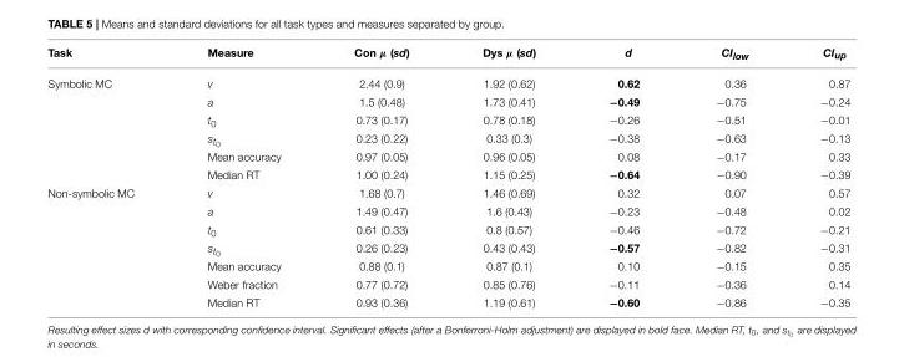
<table><thead><tr><td>Task</td><td>Measure</td><td>Con µ (sd)</td><td>Dys µ (sd)</td><td>d</td><td>CI<sub>low</sub></td><td>CI<sub>up</sub></td></tr></thead><tbody><tr><td rowspan="6">Symbolic MC</td><td>v</td><td>2.44 (0.9)</td><td>1.92 (0.62)</td><td>0.62</td><td>0.36</td><td>0.87</td></tr><tr><td>a</td><td>1.5 (0.48)</td><td>1.73 (0.41)</td><td>−0.49</td><td>−0.75</td><td>−0.24</td></tr><tr><td>t<sub>0</sub></td><td>0.73 (0.17)</td><td>0.78 (0.18)</td><td>−0.26</td><td>−0.51</td><td>−0.01</td></tr><tr><td>st0</td><td>0.23 (0.22)</td><td>0.33 (0.3)</td><td>−0.38</td><td>−0.63</td><td>−0.13</td></tr><tr><td>Mean accuracy</td><td>0.97 (0.05)</td><td>0.96 (0.05)</td><td>0.08</td><td>−0.17</td><td>0.33</td></tr><tr><td>Median RT</td><td>1.00 (0.24)</td><td>1.15 (0.25)</td><td>−0.64</td><td>−0.90</td><td>−0.39</td></tr><tr><td rowspan="7">Non-symbolic MC</td><td>v</td><td>1.68 (0.7)</td><td>1.46 (0.69)</td><td>0.32</td><td>0.07</td><td>0.57</td></tr><tr><td>a</td><td>1.49 (0.47)</td><td>1.6 (0.43)</td><td>−0.23</td><td>−0.48</td><td>0.02</td></tr><tr><td>t<sub>0</sub></td><td>0.61 (0.33)</td><td>0.8 (0.57)</td><td>−0.46</td><td>−0.72</td><td>−0.21</td></tr><tr><td>st0</td><td>0.26 (0.23)</td><td>0.43 (0.43)</td><td>−0.57</td><td>−0.82</td><td>−0.31</td></tr><tr><td>Mean accuracy</td><td>0.88 (0.1)</td><td>0.87 (0.1)</td><td>0.10</td><td>−0.15</td><td>0.35</td></tr><tr><td>Weber fraction</td><td>0.77 (0.72)</td><td>0.85 (0.76)</td><td>−0.11</td><td>−0.36</td><td>0.14</td></tr><tr><td>Median RT</td><td>0.93 (0.36)</td><td>1.19 (0.61)</td><td>−0.60</td><td>−0.86</td><td>−0.35</td></tr></tbody></table>